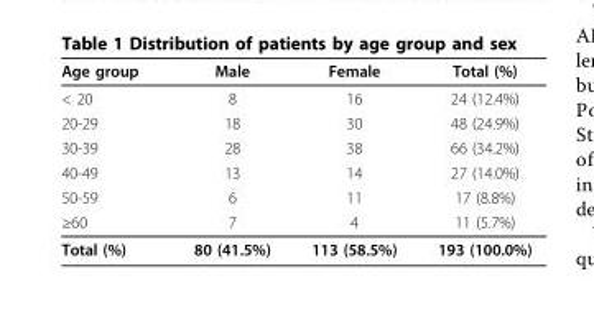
<table><thead><tr><td>Age group</td><td>Male</td><td>Female</td><td>Total (%)</td></tr></thead><tbody><tr><td>&lt; 20</td><td>8</td><td>16</td><td>24 (12.4%)</td></tr><tr><td>20-29</td><td>18</td><td>30</td><td>48 (24.9%)</td></tr><tr><td>30-39</td><td>28</td><td>38</td><td>66 (34.2%)</td></tr><tr><td>40-49</td><td>13</td><td>14</td><td>27 (14.0%)</td></tr><tr><td>50-59</td><td>6</td><td>11</td><td>17 (8.8%)</td></tr><tr><td>≥60</td><td>7</td><td>4</td><td>11 (5.7%)</td></tr><tr><td>Total (%)</td><td>80 (41.5%)</td><td>113 (58.5%)</td><td>193 (100.0%)</td></tr></tbody></table>